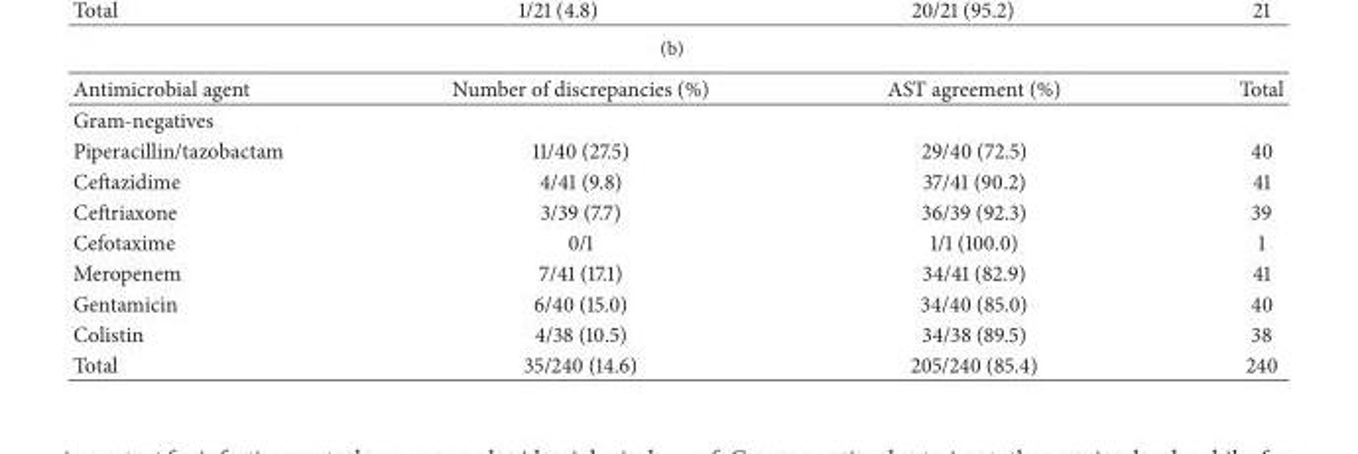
<table><thead><tr><td>Antimicrobial agent</td><td>Number of discrepancies (%)</td><td>AST agreement (%)</td><td>Total</td></tr></thead><tbody><tr><td colspan="4">Gram-negatives</td></tr><tr><td>Piperacillin/tazobactam</td><td>11/40 (27.5)</td><td>29/40 (72.5)</td><td>40</td></tr><tr><td>Ceftazidime</td><td>4/41 (9.8)</td><td>37/41 (90.2)</td><td>41</td></tr><tr><td>Ceftriaxone</td><td>3/39 (7.7)</td><td>36/39 (92.3)</td><td>39</td></tr><tr><td>Cefotaxime</td><td>0/1</td><td>1/1 (100.0)</td><td>1</td></tr><tr><td>Meropenem</td><td>7/41 (17.1)</td><td>34/41 (82.9)</td><td>41</td></tr><tr><td>Gentamicin</td><td>6/40 (15.0)</td><td>34/40 (85.0)</td><td>40</td></tr><tr><td>Colistin</td><td>4/38 (10.5)</td><td>34/38 (89.5)</td><td>38</td></tr><tr><td>Total</td><td>35/240 (14.6)</td><td>205/240 (85.4)</td><td>240</td></tr></tbody></table>